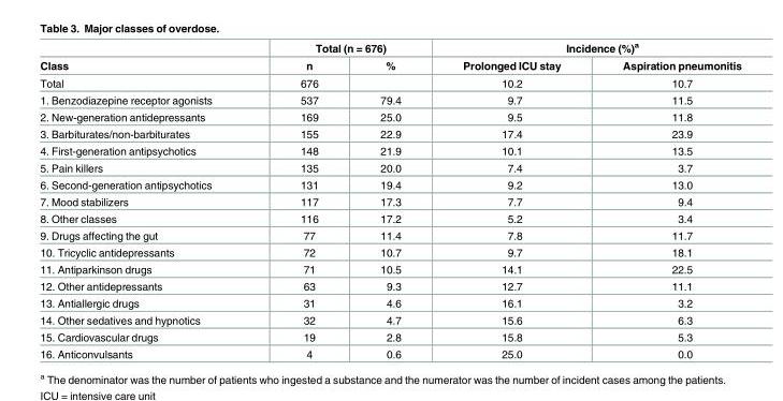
<table><thead><tr><td rowspan="2">Class</td><td colspan="2">Total (n = 676)</td><td colspan="2">Incidence (%)<sup>a</sup></td></tr><tr><td>n</td><td>%</td><td>Prolonged ICU stay</td><td>Aspiration pneumonitis</td></tr></thead><tbody><tr><td>Total</td><td>676</td><td></td><td>10.2</td><td>10.7</td></tr><tr><td>1. Benzodiazepine receptor agonists</td><td>537</td><td>79.4</td><td>9.7</td><td>11.5</td></tr><tr><td>2. New-generation antidepressants</td><td>169</td><td>25.0</td><td>9.5</td><td>11.8</td></tr><tr><td>3. Barbiturates/non-barbiturates</td><td>155</td><td>22.9</td><td>17.4</td><td>23.9</td></tr><tr><td>4. First-generation antipsychotics</td><td>148</td><td>21.9</td><td>10.1</td><td>13.5</td></tr><tr><td>5. Pain killers</td><td>135</td><td>20.0</td><td>7.4</td><td>3.7</td></tr><tr><td>6. Second-generation antipsychotics</td><td>131</td><td>19.4</td><td>9.2</td><td>13.0</td></tr><tr><td>7. Mood stabilizers</td><td>117</td><td>17.3</td><td>7.7</td><td>9.4</td></tr><tr><td>8. Other classes</td><td>116</td><td>17.2</td><td>5.2</td><td>3.4</td></tr><tr><td>9. Drugs affecting the gut</td><td>77</td><td>11.4</td><td>7.8</td><td>11.7</td></tr><tr><td>10. Tricyclic antidepressants</td><td>72</td><td>10.7</td><td>9.7</td><td>18.1</td></tr><tr><td>11. Antiparkinson drugs</td><td>71</td><td>10.5</td><td>14.1</td><td>22.5</td></tr><tr><td>12. Other antidepressants</td><td>63</td><td>9.3</td><td>12.7</td><td>11.1</td></tr><tr><td>13. Antiallergic drugs</td><td>31</td><td>4.6</td><td>16.1</td><td>3.2</td></tr><tr><td>14. Other sedatives and hypnotics</td><td>32</td><td>4.7</td><td>15.6</td><td>6.3</td></tr><tr><td>15. Cardiovascular drugs</td><td>19</td><td>2.8</td><td>15.8</td><td>5.3</td></tr><tr><td>16. Anticonvulsants</td><td>4</td><td>0.6</td><td>25.0</td><td>0.0</td></tr></tbody></table>